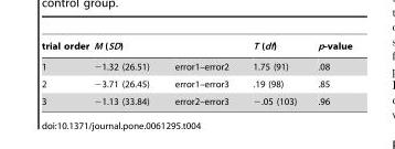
<table><thead><tr><td>trial order</td><td>M (SD)</td><td></td><td>T (df)</td><td>p-value</td></tr></thead><tbody><tr><td>1</td><td>−1.32 (26.51)</td><td>error1–error2</td><td>1.75 (91)</td><td>.08</td></tr><tr><td>2</td><td>−3.71 (26.45)</td><td>error1–error3</td><td>.19 (98)</td><td>.85</td></tr><tr><td>3</td><td>−1.13 (33.84)</td><td>error2–error3</td><td>−.05 (103)</td><td>.96</td></tr></tbody></table>